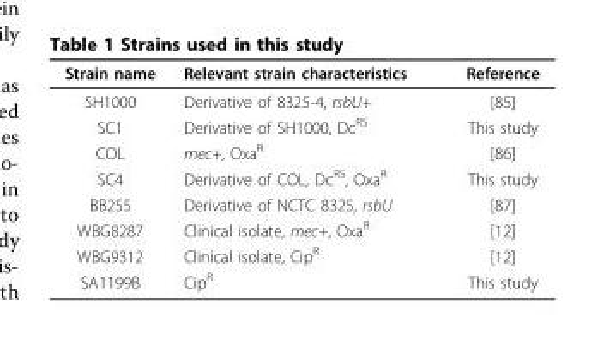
<table><thead><tr><td>Strain name</td><td>Relevant strain characteristics</td><td>Reference</td></tr></thead><tbody><tr><td>SH1000</td><td>Derivative of 8325-4, rsbU+</td><td>[85]</td></tr><tr><td>SC1</td><td>Derivative of SH1000, Dc<sup>RS</sup></td><td>This study</td></tr><tr><td>COL</td><td>mec+, Oxa<sup>R</sup></td><td>[86]</td></tr><tr><td>SC4</td><td>Derivative of COL, Dc<sup>RS</sup>, Oxa<sup>R</sup></td><td>This study</td></tr><tr><td>BB255</td><td>Derivative of NCTC 8325, rsbU</td><td>[87]</td></tr><tr><td>WBG8287</td><td>Clinical isolate, mec+, Oxa<sup>R</sup></td><td>[12]</td></tr><tr><td>WBG9312</td><td>Clinical isolate, Cip<sup>R</sup></td><td>[12]</td></tr><tr><td>SA1199B</td><td>Cip<sup>R</sup></td><td>This study</td></tr></tbody></table>